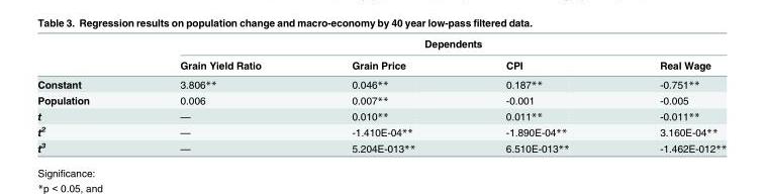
<table><thead><tr><td rowspan="2"></td><td colspan="4">Dependents</td></tr><tr><td>Grain Yield Ratio</td><td>Grain Price</td><td>CPI</td><td>Real Wage</td></tr></thead><tbody><tr><td>Constant</td><td>3.806**</td><td>0.046**</td><td>0.187**</td><td>-0.751**</td></tr><tr><td>Population</td><td>0.006</td><td>0.007**</td><td>-0.001</td><td>-0.005</td></tr><tr><td>t</td><td>—</td><td>0.010**</td><td>0.011**</td><td>-0.011**</td></tr><tr><td>t<sup>2</sup></td><td>—</td><td>-1.410E-04**</td><td>-1.890E-04**</td><td>3.160E-04**</td></tr><tr><td>t<sup>3</sup></td><td>—</td><td>5.204E-013**</td><td>6.510E-013**</td><td>-1.462E-012**</td></tr></tbody></table>